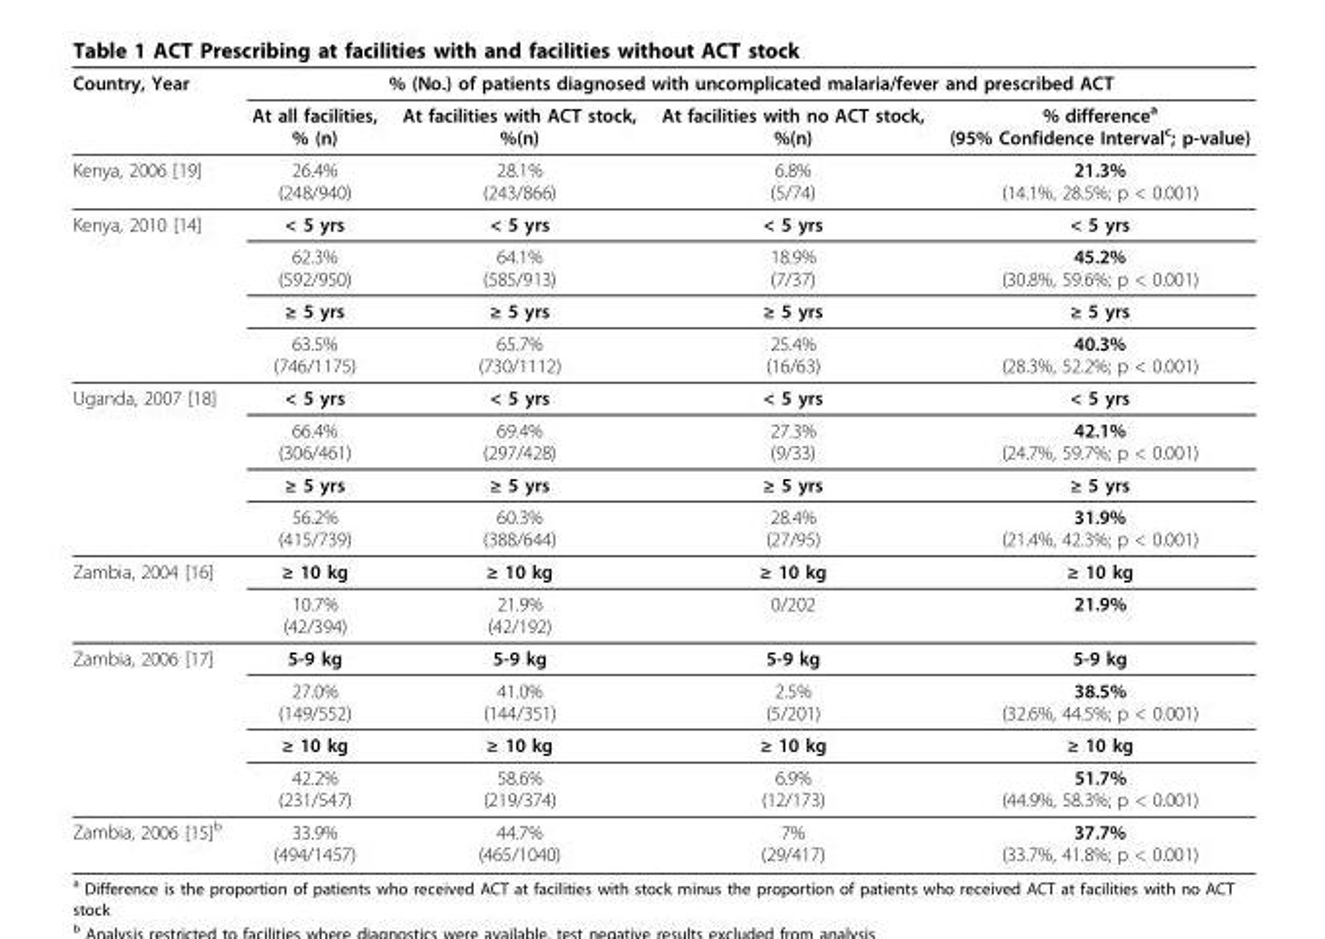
<table><thead><tr><td rowspan="2">Country, Year</td><td colspan="4">% (No.) of patients diagnosed with uncomplicated malaria/fever and prescribed ACT</td></tr><tr><td>At all facilities, % (n)</td><td>At facilities with ACT stock, %(n)</td><td>At facilities with no ACT stock, %(n)</td><td>% difference<sup>a</sup> (95% Confidence Interval<sup>c</sup>; p-value)</td></tr></thead><tbody><tr><td>Kenya, 2006 [19]</td><td>26.4% (248/940)</td><td>28.1% (243/866)</td><td>6.8% (5/74)</td><td>21.3% (14.1%, 28.5%; p &lt; 0.001)</td></tr><tr><td rowspan="4">Kenya, 2010 [14]</td><td>&lt; 5 yrs</td><td>&lt; 5 yrs</td><td>&lt; 5 yrs</td><td>&lt; 5 yrs</td></tr><tr><td>62.3% (592/950)</td><td>64.1% (585/913)</td><td>18.9% (7/37)</td><td>45.2% (30.8%, 59.6%; p &lt; 0.001)</td></tr><tr><td>≥ 5 yrs</td><td>≥ 5 yrs</td><td>≥ 5 yrs</td><td>≥ 5 yrs</td></tr><tr><td>63.5% (746/1175)</td><td>65.7% (730/1112)</td><td>25.4% (16/63)</td><td>40.3% (28.3%, 52.2%; p &lt; 0.001)</td></tr><tr><td rowspan="4">Uganda, 2007 [18]</td><td>&lt; 5 yrs</td><td>&lt; 5 yrs</td><td>&lt; 5 yrs</td><td>&lt; 5 yrs</td></tr><tr><td>66.4% (306/461)</td><td>69.4% (297/428)</td><td>27.3% (9/33)</td><td>42.1% (24.7%, 59.7%; p &lt; 0.001)</td></tr><tr><td>≥ 5 yrs</td><td>≥ 5 yrs</td><td>≥ 5 yrs</td><td>≥ 5 yrs</td></tr><tr><td>56.2% (415/739)</td><td>60.3% (388/644)</td><td>28.4% (27/95)</td><td>31.9% (21.4%, 42.3%; p &lt; 0.001)</td></tr><tr><td rowspan="2">Zambia, 2004 [16]</td><td>≥ 10 kg</td><td>≥ 10 kg</td><td>≥ 10 kg</td><td>≥ 10 kg</td></tr><tr><td>10.7% (42/394)</td><td>21.9% (42/192)</td><td>0/202</td><td>21.9%</td></tr><tr><td rowspan="4">Zambia, 2006 [17]</td><td>5-9 kg</td><td>5-9 kg</td><td>5-9 kg</td><td>5-9 kg</td></tr><tr><td>27.0% (149/552)</td><td>41.0% (144/351)</td><td>2.5% (5/201)</td><td>38.5% (32.6%, 44.5%; p &lt; 0.001)</td></tr><tr><td>≥ 10 kg</td><td>≥ 10 kg</td><td>≥ 10 kg</td><td>≥ 10 kg</td></tr><tr><td>42.2% (231/547)</td><td>58.6% (219/374)</td><td>6.9% (12/173)</td><td>51.7% (44.9%, 58.3%; p &lt; 0.001)</td></tr><tr><td>Zambia, 2006 [15]<sup>b</sup></td><td>33.9% (494/1457)</td><td>44.7% (465/1040)</td><td>7% (29/417)</td><td>37.7% (33.7%, 41.8%; p &lt; 0.001)</td></tr></tbody></table>